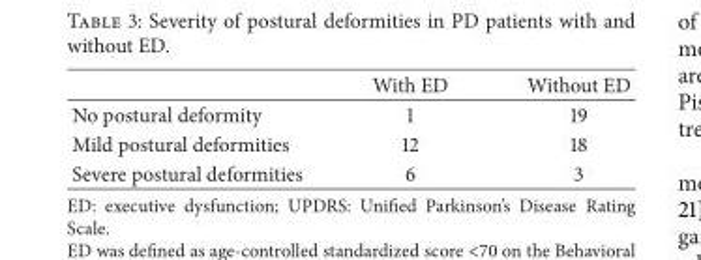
<table><thead><tr><td></td><td>With ED</td><td>Without ED</td></tr></thead><tbody><tr><td>No postural deformity</td><td>1</td><td>19</td></tr><tr><td>Mild postural deformities</td><td>12</td><td>18</td></tr><tr><td>Severe postural deformities</td><td>6</td><td>3</td></tr></tbody></table>